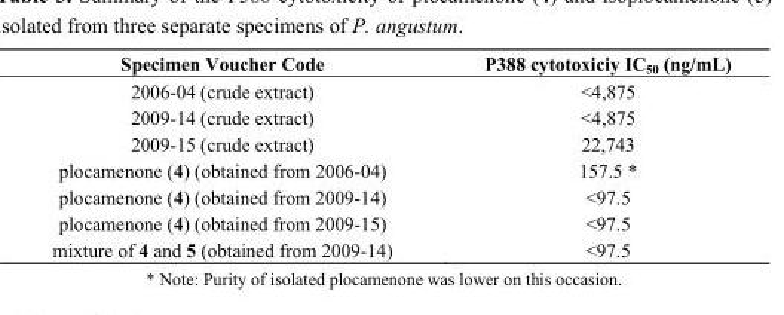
<table><thead><tr><td>Specimen Voucher Code</td><td>P388 cytotoxiciy IC<sub>50</sub> (ng/mL)</td></tr></thead><tbody><tr><td>2006-04 (crude extract)</td><td>&lt;4,875</td></tr><tr><td>2009-14 (crude extract)</td><td>&lt;4,875</td></tr><tr><td>2009-15 (crude extract)</td><td>22,743</td></tr><tr><td>plocamenone (4) (obtained from 2006-04)</td><td>157.5 *</td></tr><tr><td>plocamenone (4) (obtained from 2009-14)</td><td>&lt;97.5</td></tr><tr><td>plocamenone (4) (obtained from 2009-15)</td><td>&lt;97.5</td></tr><tr><td>mixture of 4 and 5 (obtained from 2009-14)</td><td>&lt;97.5</td></tr></tbody></table>